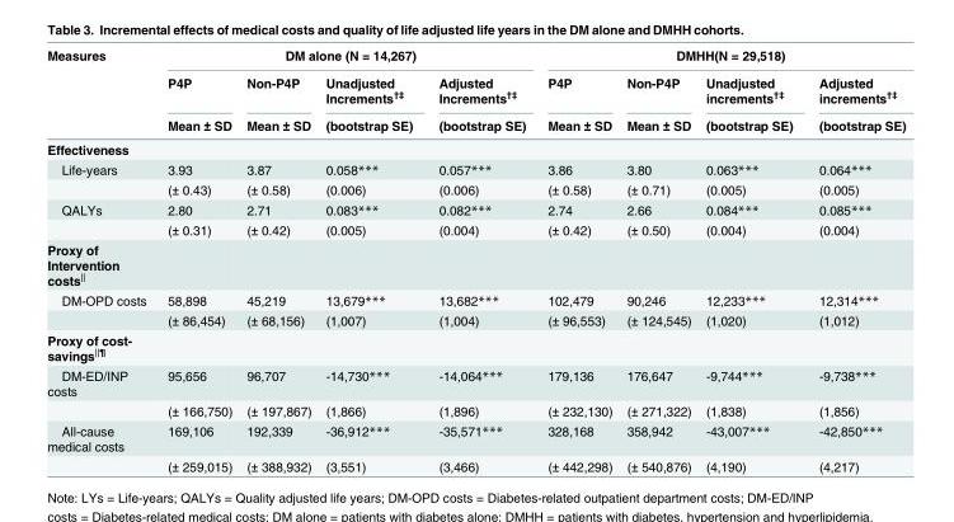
<table><thead><tr><td rowspan="3">Measures</td><td colspan="4">DM alone (N = 14,267)</td><td colspan="4">DMHH(N = 29,518)</td></tr><tr><td rowspan="2">P4P Mean ± SD</td><td rowspan="2">Non-P4P Mean ± SD</td><td rowspan="2">Unadjusted Increments†‡ (bootstrap SE)</td><td rowspan="2">Adjusted Increments†‡ (bootstrap SE)</td><td rowspan="2">P4P Mean ± SD</td><td rowspan="2">Non-P4P Mean ± SD</td><td rowspan="2">Unadjusted increments†‡ (bootstrap SE)</td><td rowspan="2">Adjusted increments†‡ (bootstrap SE)</td></tr><tr></tr></thead><tbody><tr><td colspan="9">Effectiveness</td></tr><tr><td rowspan="2">Life-years</td><td>3.93</td><td>3.87</td><td>0.058***</td><td>0.057***</td><td>3.86</td><td>3.80</td><td>0.063***</td><td>0.064***</td></tr><tr><td>(± 0.43)</td><td>(± 0.58)</td><td>(0.006)</td><td>(0.006)</td><td>(± 0.58)</td><td>(± 0.71)</td><td>(0.005)</td><td>(0.005)</td></tr><tr><td rowspan="2">QALYs</td><td>2.80</td><td>2.71</td><td>0.083***</td><td>0.082***</td><td>2.74</td><td>2.66</td><td>0.084***</td><td>0.085***</td></tr><tr><td>(± 0.31)</td><td>(± 0.42)</td><td>(0.005)</td><td>(0.004)</td><td>(± 0.42)</td><td>(± 0.50)</td><td>(0.004)</td><td>(0.004)</td></tr><tr><td colspan="9">Proxy of Intervention costs<sup>||</sup></td></tr><tr><td rowspan="2">DM-OPD costs</td><td>58,898</td><td>45,219</td><td>13,679***</td><td>13,682***</td><td>102,479</td><td>90,246</td><td>12,233***</td><td>12,314***</td></tr><tr><td>(± 86,454)</td><td>(± 68,156)</td><td>(1,007)</td><td>(1,004)</td><td>(± 96,553)</td><td>(± 124,545)</td><td>(1,020)</td><td>(1,012)</td></tr><tr><td colspan="9">Proxy of cost- savings<sup>||¶</sup></td></tr><tr><td rowspan="2">DM-ED/INP costs</td><td>95,656</td><td>96,707</td><td>-14,730***</td><td>-14,064***</td><td>179,136</td><td>176,647</td><td>-9,744***</td><td>-9,738***</td></tr><tr><td>(± 166,750)</td><td>(± 197,867)</td><td>(1,866)</td><td>(1,896)</td><td>(± 232,130)</td><td>(± 271,322)</td><td>(1,838)</td><td>(1,856)</td></tr><tr><td rowspan="2">All-cause medical costs</td><td>169,106</td><td>192,339</td><td>-36,912***</td><td>-35,571***</td><td>328,168</td><td>358,942</td><td>-43,007***</td><td>-42,850***</td></tr><tr><td>(± 259,015)</td><td>(± 388,932)</td><td>(3,551)</td><td>(3,466)</td><td>(± 442,298)</td><td>(± 540,876)</td><td>(4,190)</td><td>(4,217)</td></tr></tbody></table>